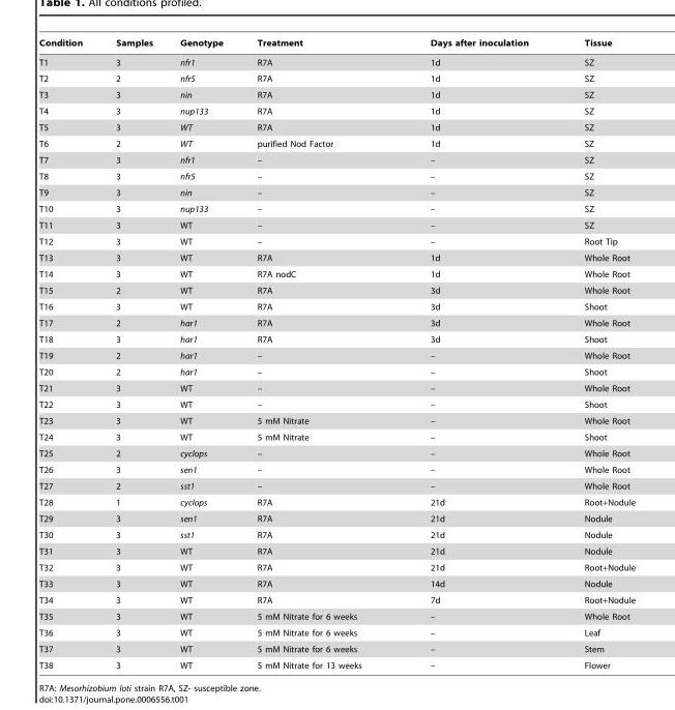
<table><thead><tr><td>Condition</td><td>Samples</td><td>Genotype</td><td>Treatment</td><td>Days after inoculation</td><td>Tissue</td></tr></thead><tbody><tr><td>T1</td><td>3</td><td>nfr1</td><td>R7A</td><td>1d</td><td>SZ</td></tr><tr><td>T2</td><td>2</td><td>nfr5</td><td>R7A</td><td>1d</td><td>SZ</td></tr><tr><td>T3</td><td>3</td><td>nin</td><td>R7A</td><td>1d</td><td>SZ</td></tr><tr><td>T4</td><td>3</td><td>nup133</td><td>R7A</td><td>1d</td><td>SZ</td></tr><tr><td>T5</td><td>3</td><td>WT</td><td>R7A</td><td>1d</td><td>SZ</td></tr><tr><td>T6</td><td>2</td><td>WT</td><td>purified Nod Factor</td><td>1d</td><td>SZ</td></tr><tr><td>T7</td><td>3</td><td>nfr1</td><td>–</td><td>–</td><td>SZ</td></tr><tr><td>T8</td><td>3</td><td>nfr5</td><td>–</td><td>–</td><td>SZ</td></tr><tr><td>T9</td><td>3</td><td>nin</td><td>–</td><td>–</td><td>SZ</td></tr><tr><td>T10</td><td>3</td><td>nup133</td><td>–</td><td>–</td><td>SZ</td></tr><tr><td>T11</td><td>3</td><td>WT</td><td>–</td><td>–</td><td>SZ</td></tr><tr><td>T12</td><td>3</td><td>WT</td><td>–</td><td>–</td><td>Root Tip</td></tr><tr><td>T13</td><td>3</td><td>WT</td><td>R7A</td><td>1d</td><td>Whole Root</td></tr><tr><td>T14</td><td>3</td><td>WT</td><td>R7A nodC</td><td>1d</td><td>Whole Root</td></tr><tr><td>T15</td><td>2</td><td>WT</td><td>R7A</td><td>3d</td><td>Whole Root</td></tr><tr><td>T16</td><td>3</td><td>WT</td><td>R7A</td><td>3d</td><td>Shoot</td></tr><tr><td>T17</td><td>2</td><td>har1</td><td>R7A</td><td>3d</td><td>Whole Root</td></tr><tr><td>T18</td><td>3</td><td>har1</td><td>R7A</td><td>3d</td><td>Shoot</td></tr><tr><td>T19</td><td>2</td><td>har1</td><td>–</td><td>–</td><td>Whole Root</td></tr><tr><td>T20</td><td>2</td><td>har1</td><td>–</td><td>–</td><td>Shoot</td></tr><tr><td>T21</td><td>3</td><td>WT</td><td>–</td><td>–</td><td>Whole Root</td></tr><tr><td>T22</td><td>3</td><td>WT</td><td>–</td><td>–</td><td>Shoot</td></tr><tr><td>T23</td><td>3</td><td>WT</td><td>5 mM Nitrate</td><td>–</td><td>Whole Root</td></tr><tr><td>T24</td><td>3</td><td>WT</td><td>5 mM Nitrate</td><td>–</td><td>Shoot</td></tr><tr><td>T25</td><td>2</td><td>cyclops</td><td>–</td><td>–</td><td>Whole Root</td></tr><tr><td>T26</td><td>3</td><td>sen1</td><td>–</td><td>–</td><td>Whole Root</td></tr><tr><td>T27</td><td>2</td><td>sst1</td><td>–</td><td>–</td><td>Whole Root</td></tr><tr><td>T28</td><td>1</td><td>cyclops</td><td>R7A</td><td>21d</td><td>Root+Nodule</td></tr><tr><td>T29</td><td>3</td><td>sen1</td><td>R7A</td><td>21d</td><td>Nodule</td></tr><tr><td>T30</td><td>3</td><td>sst1</td><td>R7A</td><td>21d</td><td>Nodule</td></tr><tr><td>T31</td><td>3</td><td>WT</td><td>R7A</td><td>21d</td><td>Nodule</td></tr><tr><td>T32</td><td>3</td><td>WT</td><td>R7A</td><td>21d</td><td>Root+Nodule</td></tr><tr><td>T33</td><td>3</td><td>WT</td><td>R7A</td><td>14d</td><td>Nodule</td></tr><tr><td>T34</td><td>3</td><td>WT</td><td>R7A</td><td>7d</td><td>Root+Nodule</td></tr><tr><td>T35</td><td>3</td><td>WT</td><td>5 mM Nitrate for 6 weeks</td><td>–</td><td>Whole Root</td></tr><tr><td>T36</td><td>3</td><td>WT</td><td>5 mM Nitrate for 6 weeks</td><td>–</td><td>Leaf</td></tr><tr><td>T37</td><td>3</td><td>WT</td><td>5 mM Nitrate for 6 weeks</td><td>–</td><td>Stem</td></tr><tr><td>T38</td><td>3</td><td>WT</td><td>5 mM Nitrate for 13 weeks</td><td>–</td><td>Flower</td></tr></tbody></table>